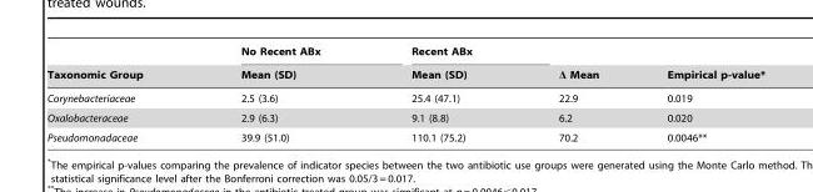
<table><thead><tr><td rowspan="2">Taxonomic Group</td><td rowspan="2">No Recent ABx Mean (SD)</td><td rowspan="2">Recent ABx Mean (SD)</td><td rowspan="2">Δ Mean</td><td rowspan="2">Empirical p-value*</td></tr><tr></tr></thead><tbody><tr><td>Corynebacteriaceae</td><td>2.5 (3.6)</td><td>25.4 (47.1)</td><td>22.9</td><td>0.019</td></tr><tr><td>Oxalobacteraceae</td><td>2.9 (6.3)</td><td>9.1 (8.8)</td><td>6.2</td><td>0.020</td></tr><tr><td>Pseudomonadaceae</td><td>39.9 (51.0)</td><td>110.1 (75.2)</td><td>70.2</td><td>0.0046**</td></tr></tbody></table>